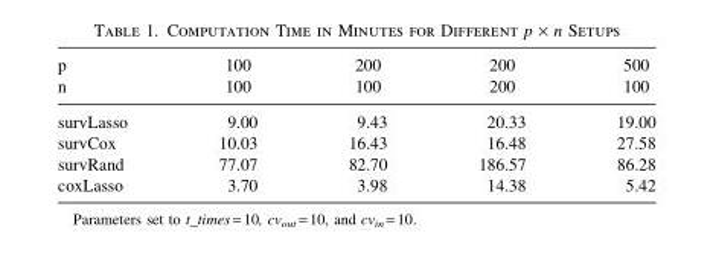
<table><thead><tr><td rowspan="2">p n</td><td rowspan="2">100 100</td><td rowspan="2">200 100</td><td rowspan="2">200 200</td><td rowspan="2">500 100</td></tr><tr></tr></thead><tbody><tr><td>survLasso</td><td>9.00</td><td>9.43</td><td>20.33</td><td>19.00</td></tr><tr><td>survCox</td><td>10.03</td><td>16.43</td><td>16.48</td><td>27.58</td></tr><tr><td>survRand</td><td>77.07</td><td>82.70</td><td>186.57</td><td>86.28</td></tr><tr><td>coxLasso</td><td>3.70</td><td>3.98</td><td>14.38</td><td>5.42</td></tr></tbody></table>